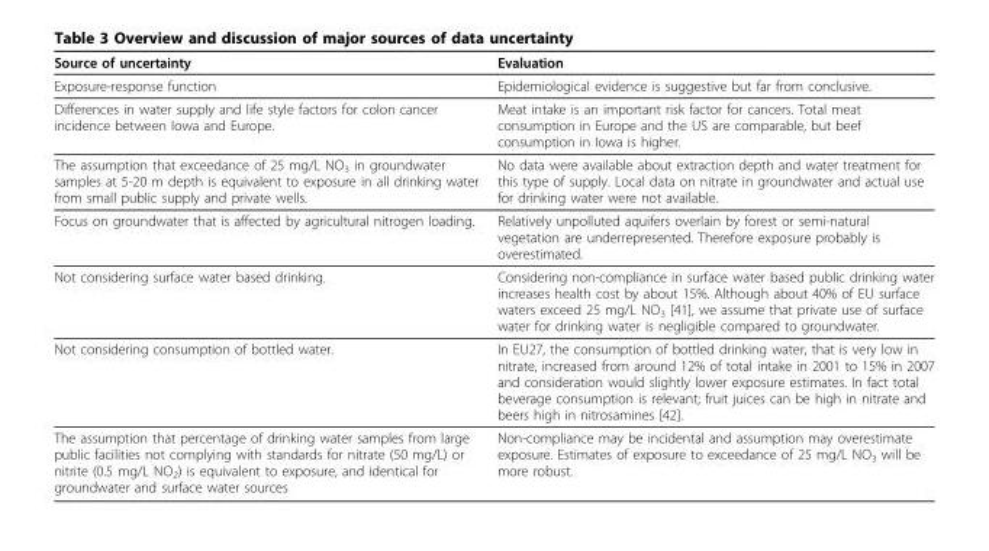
<table><thead><tr><td>Source of uncertainty</td><td>Evaluation</td></tr></thead><tbody><tr><td>Exposure-response function</td><td>Epidemiological evidence is suggestive but far from conclusive.</td></tr><tr><td>Differences in water supply and life style factors for colon cancer incidence between Iowa and Europe.</td><td>Meat intake is an important risk factor for cancers. Total meat consumption in Europe and the US are comparable, but beef consumption in Iowa is higher.</td></tr><tr><td>The assumption that exceedance of 25 mg/L NO<sub>3</sub> in groundwater samples at 5-20 m depth is equivalent to exposure in all drinking water from small public supply and private wells.</td><td>No data were available about extraction depth and water treatment for this type of supply. Local data on nitrate in groundwater and actual use for drinking water were not available.</td></tr><tr><td>Focus on groundwater that is affected by agricultural nitrogen loading.</td><td>Relatively unpolluted aquifers overlain by forest or semi-natural vegetation are underrepresented. Therefore exposure probably is overestimated.</td></tr><tr><td>Not considering surface water based drinking.</td><td>Considering non-compliance in surface water based public drinking water increases health cost by about 15%. Although about 40% of EU surface waters exceed 25 mg/L NO<sub>3</sub> [41], we assume that private use of surface water for drinking water is negligible compared to groundwater.</td></tr><tr><td>Not considering consumption of bottled water.</td><td>In EU27, the consumption of bottled drinking water, that is very low in nitrate, increased from around 12% of total intake in 2001 to 15% in 2007 and consideration would slightly lower exposure estimates. In fact total beverage consumption is relevant; fruit juices can be high in nitrate and beers high in nitrosamines [42].</td></tr><tr><td>The assumption that percentage of drinking water samples from large public facilities not complying with standards for nitrate (50 mg/L) or nitrite (0.5 mg/L NO<sub>2</sub>) is equivalent to exposure, and identical for groundwater and surface water sources</td><td>Non-compliance may be incidental and assumption may overestimate exposure. Estimates of exposure to exceedance of 25 mg/L NO<sub>3</sub> will be more robust.</td></tr></tbody></table>